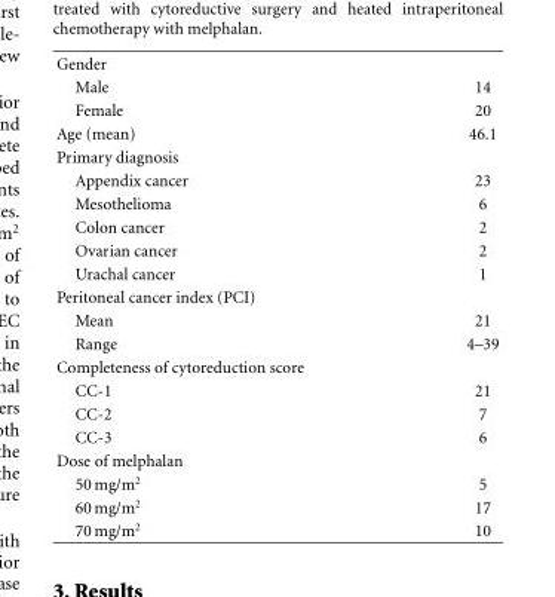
<table><tbody><tr><td colspan="2">Gender</td></tr><tr><td>Male</td><td>14</td></tr><tr><td>Female</td><td>20</td></tr><tr><td>Age (mean)</td><td>46.1</td></tr><tr><td colspan="2">Primary diagnosis</td></tr><tr><td>Appendix cancer</td><td>23</td></tr><tr><td>Mesothelioma</td><td>6</td></tr><tr><td>Colon cancer</td><td>2</td></tr><tr><td>Ovarian cancer</td><td>2</td></tr><tr><td>Urachal cancer</td><td>1</td></tr><tr><td colspan="2">Peritoneal cancer index (PCI)</td></tr><tr><td>Mean</td><td>21</td></tr><tr><td>Range</td><td>4–39</td></tr><tr><td colspan="2">Completeness of cytoreduction score</td></tr><tr><td>CC-1</td><td>21</td></tr><tr><td>CC-2</td><td>7</td></tr><tr><td>CC-3</td><td>6</td></tr><tr><td colspan="2">Dose of melphalan</td></tr><tr><td>50 mg/m<sup>2</sup></td><td>5</td></tr><tr><td>60 mg/m<sup>2</sup></td><td>17</td></tr><tr><td>70 mg/m<sup>2</sup></td><td>10</td></tr></tbody></table>